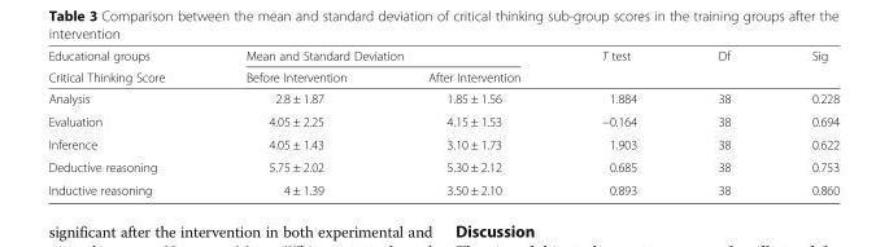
<table><thead><tr><td rowspan="2">Educational groups Critical Thinking Score</td><td colspan="2">Mean and Standard Deviation</td><td rowspan="2">T test</td><td rowspan="2">Df</td><td rowspan="2">Sig</td></tr><tr><td>Before Intervention</td><td>After Intervention</td></tr></thead><tbody><tr><td>Analysis</td><td>2.8 ± 1.87</td><td>1.85 ± 1.56</td><td>1.884</td><td>38</td><td>0.228</td></tr><tr><td>Evaluation</td><td>4.05 ± 2.25</td><td>4.15 ± 1.53</td><td>−0.164</td><td>38</td><td>0.694</td></tr><tr><td>Inference</td><td>4.05 ± 1.43</td><td>3.10 ± 1.73</td><td>1.903</td><td>38</td><td>0.622</td></tr><tr><td>Deductive reasoning</td><td>5.75 ± 2.02</td><td>5.30 ± 2.12</td><td>0.685</td><td>38</td><td>0.753</td></tr><tr><td>Inductive reasoning</td><td>4 ± 1.39</td><td>3.50 ± 2.10</td><td>0.893</td><td>38</td><td>0.860</td></tr></tbody></table>